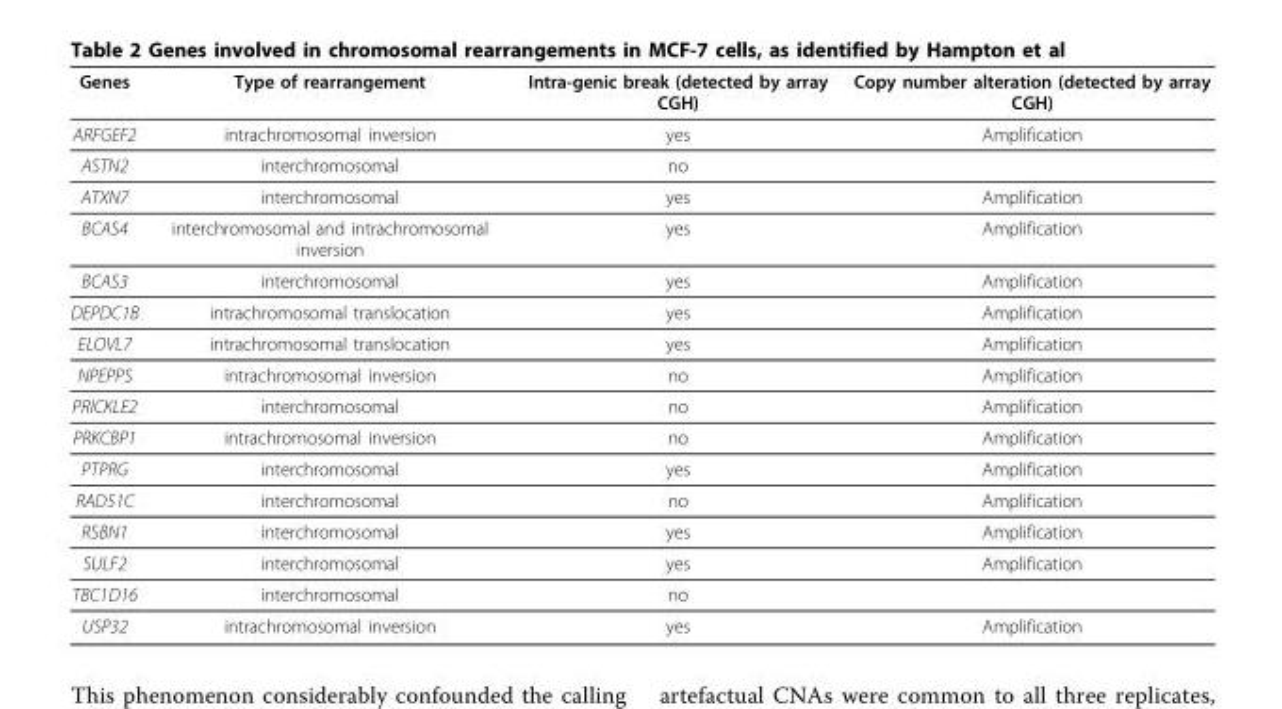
<table><thead><tr><td>Genes</td><td>Type of rearrangement</td><td>Intra-genic break (detected by array CGH)</td><td>Copy number alteration (detected by array CGH)</td></tr></thead><tbody><tr><td>ARFGEF2</td><td>intrachromosomal inversion</td><td>yes</td><td>Amplification</td></tr><tr><td>ASTN2</td><td>interchromosomal</td><td>no</td><td></td></tr><tr><td>ATXN7</td><td>interchromosomal</td><td>yes</td><td>Amplification</td></tr><tr><td>BCAS4</td><td>interchromosomal and intrachromosomal inversion</td><td>yes</td><td>Amplification</td></tr><tr><td>BCAS3</td><td>interchromosomal</td><td>yes</td><td>Amplification</td></tr><tr><td>DEPDC1B</td><td>intrachromosomal translocation</td><td>yes</td><td>Amplification</td></tr><tr><td>ELOVL7</td><td>intrachromosomal translocation</td><td>yes</td><td>Amplification</td></tr><tr><td>NPEPPS</td><td>intrachromosomal inversion</td><td>no</td><td>Amplification</td></tr><tr><td>PRICKLE2</td><td>interchromosomal</td><td>no</td><td>Amplification</td></tr><tr><td>PRKCBP1</td><td>intrachromosomal inversion</td><td>no</td><td>Amplification</td></tr><tr><td>PTPRG</td><td>interchromosomal</td><td>yes</td><td>Amplification</td></tr><tr><td>RAD51C</td><td>interchromosomal</td><td>no</td><td>Amplification</td></tr><tr><td>RSBN1</td><td>interchromosomal</td><td>yes</td><td>Amplification</td></tr><tr><td>SULF2</td><td>interchromosomal</td><td>yes</td><td>Amplification</td></tr><tr><td>TBC1D16</td><td>interchromosomal</td><td>no</td><td></td></tr><tr><td>USP32</td><td>intrachromosomal inversion</td><td>yes</td><td>Amplification</td></tr></tbody></table>